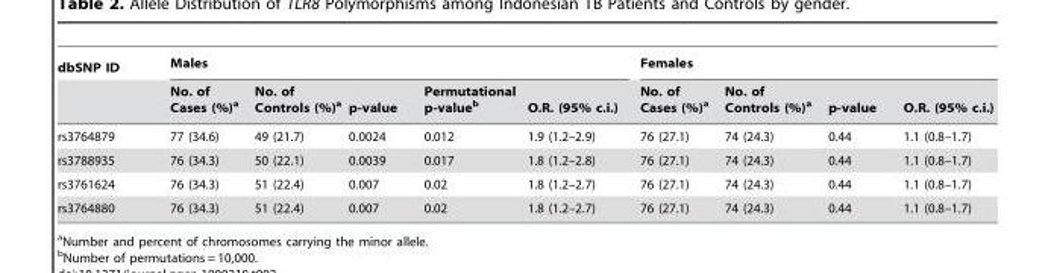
<table><thead><tr><td rowspan="2">dbSNP ID</td><td colspan="5">Males</td><td colspan="4">Females</td></tr><tr><td>No. of Cases (%)<sup>a</sup></td><td>No. of Controls (%)<sup>a</sup></td><td>p-value</td><td>Permutational p-value<sup>b</sup></td><td>O.R. (95% c.i.)</td><td>No. of Cases (%)<sup>a</sup></td><td>No. of Controls (%)<sup>a</sup></td><td>p-value</td><td>O.R. (95% c.i.)</td></tr></thead><tbody><tr><td>rs3764879</td><td>77 (34.6)</td><td>49 (21.7)</td><td>0.0024</td><td>0.012</td><td>1.9 (1.2–2.9)</td><td>76 (27.1)</td><td>74 (24.3)</td><td>0.44</td><td>1.1 (0.8–1.7)</td></tr><tr><td>rs3788935</td><td>76 (34.3)</td><td>50 (22.1)</td><td>0.0039</td><td>0.017</td><td>1.8 (1.2–2.8)</td><td>76 (27.1)</td><td>74 (24.3)</td><td>0.44</td><td>1.1 (0.8–1.7)</td></tr><tr><td>rs3761624</td><td>76 (34.3)</td><td>51 (22.4)</td><td>0.007</td><td>0.02</td><td>1.8 (1.2–2.7)</td><td>76 (27.1)</td><td>74 (24.3)</td><td>0.44</td><td>1.1 (0.8–1.7)</td></tr><tr><td>rs3764880</td><td>76 (34.3)</td><td>51 (22.4)</td><td>0.007</td><td>0.02</td><td>1.8 (1.2–2.7)</td><td>76 (27.1)</td><td>74 (24.3)</td><td>0.44</td><td>1.1 (0.8–1.7)</td></tr></tbody></table>